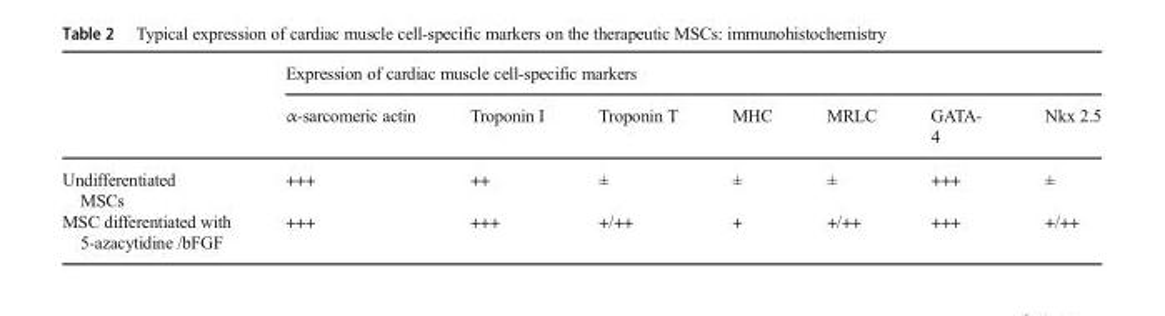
<table><thead><tr><td rowspan="2"></td><td colspan="7">Expression of cardiac muscle cell-specific markers</td></tr><tr><td>α-sarcomeric actin</td><td>Troponin I</td><td>Troponin T</td><td>MHC</td><td>MRLC</td><td>GATA- 4</td><td>Nkx 2.5</td></tr></thead><tbody><tr><td>Undifferentiated MSCs</td><td>+++</td><td>++</td><td>±</td><td>±</td><td>±</td><td>+++</td><td>±</td></tr><tr><td>MSC differentiated with 5-azacytidine /bFGF</td><td>+++</td><td>+++</td><td>+/++</td><td>+</td><td>+/++</td><td>+++</td><td>+/++</td></tr></tbody></table>